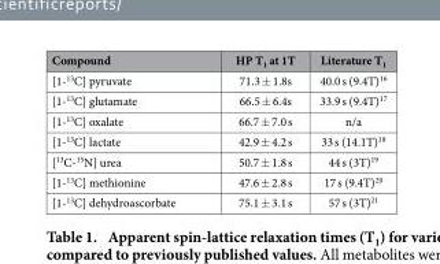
<table><thead><tr><td>Compound</td><td>HP T<sub>1</sub> at 1T</td><td>Literature T<sub>1</sub></td></tr></thead><tbody><tr><td>[1-<sup>13</sup>C] pyruvate</td><td>71.3 ± 1.8s</td><td>40.0 s (9.4T)<sup>16</sup></td></tr><tr><td>[1-<sup>13</sup>C] glutamate</td><td>66.5 ± 6.4s</td><td>33.9 s (9.4T)<sup>17</sup></td></tr><tr><td>[1-<sup>13</sup>C] oxalate</td><td>66.7 ± 7.0 s</td><td>n/a</td></tr><tr><td>[1-<sup>13</sup>C] lactate</td><td>42.9 ± 4.2 s</td><td>33 s (14.1T)<sup>18</sup></td></tr><tr><td>[<sup>13</sup>C-<sup>15</sup>N] urea</td><td>50.7 ± 1.8 s</td><td>44 s (3T)<sup>19</sup></td></tr><tr><td>[1-<sup>13</sup>C] methionine</td><td>47.6 ± 2.8 s</td><td>17 s (9.4T)<sup>20</sup></td></tr><tr><td>[1-<sup>13</sup>C] dehydroascorbate</td><td>75.1 ± 3.1 s</td><td>57 s (3T)<sup>21</sup></td></tr></tbody></table>